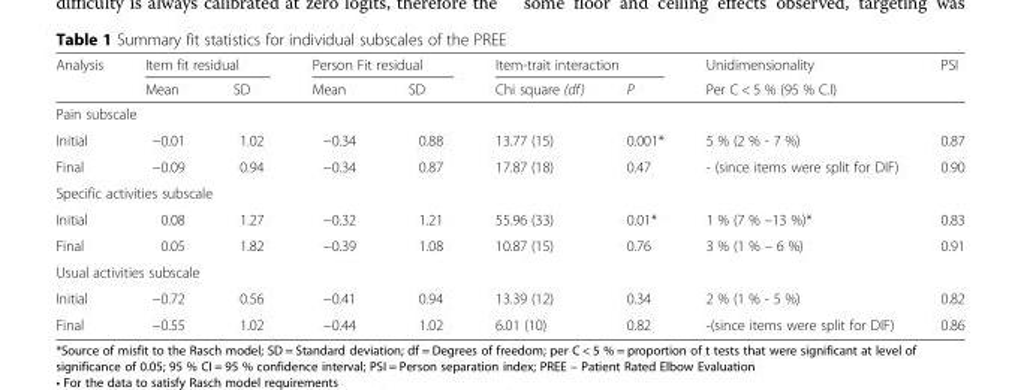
<table><thead><tr><td rowspan="2">Analysis</td><td colspan="2">Item fit residual</td><td colspan="2">Person Fit residual</td><td colspan="2">Item-trait interaction</td><td rowspan="2">Unidimensionality Per C &lt; 5 % (95 % C.I)</td><td rowspan="2">PSI</td></tr><tr><td>Mean</td><td>SD</td><td>Mean</td><td>SD</td><td>Chi square (df)</td><td>P</td></tr></thead><tbody><tr><td colspan="9">Pain subscale</td></tr><tr><td>Initial</td><td>−0.01</td><td>1.02</td><td>−0.34</td><td>0.88</td><td>13.77 (15)</td><td>0.001*</td><td>5 % (2 % - 7 %)</td><td>0.87</td></tr><tr><td>Final</td><td>−0.09</td><td>0.94</td><td>−0.34</td><td>0.87</td><td>17.87 (18)</td><td>0.47</td><td>- (since items were split for DIF)</td><td>0.90</td></tr><tr><td colspan="9">Specific activities subscale</td></tr><tr><td>Initial</td><td>0.08</td><td>1.27</td><td>−0.32</td><td>1.21</td><td>55.96 (33)</td><td>0.01*</td><td>1 % (7 % –13 %)*</td><td>0.83</td></tr><tr><td>Final</td><td>0.05</td><td>1.82</td><td>−0.39</td><td>1.08</td><td>10.87 (15)</td><td>0.76</td><td>3 % (1 % – 6 %)</td><td>0.91</td></tr><tr><td colspan="9">Usual activities subscale</td></tr><tr><td>Initial</td><td>−0.72</td><td>0.56</td><td>−0.41</td><td>0.94</td><td>13.39 (12)</td><td>0.34</td><td>2 % (1 % - 5 %)</td><td>0.82</td></tr><tr><td>Final</td><td>−0.55</td><td>1.02</td><td>−0.44</td><td>1.02</td><td>6.01 (10)</td><td>0.82</td><td>-(since items were split for DIF)</td><td>0.86</td></tr></tbody></table>